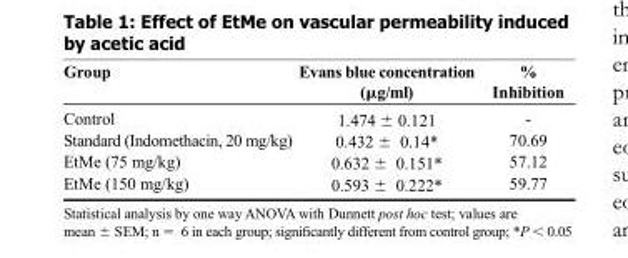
<table><thead><tr><td>Group</td><td>Evans blue concentration (mg/ml)</td><td>% Inhibition</td></tr></thead><tbody><tr><td>Control</td><td>1.474 ± 0.121</td><td>-</td></tr><tr><td>Standard (Indomethacin, 20 mg/kg)</td><td>0.432 ± 0.14*</td><td>70.69</td></tr><tr><td>EtMe (75 mg/kg)</td><td>0.632 ± 0.151*</td><td>57.12</td></tr><tr><td>EtMe (150 mg/kg)</td><td>0.593 ± 0.222*</td><td>59.77</td></tr></tbody></table>